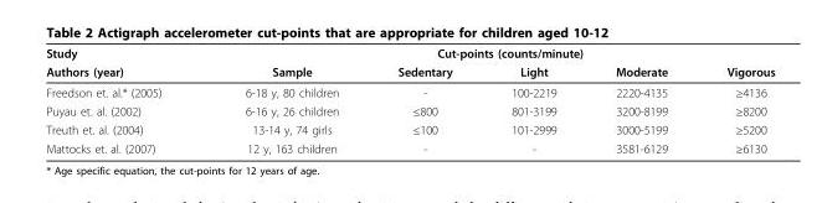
<table><thead><tr><td rowspan="2">Study Authors (year)</td><td colspan="5">Cut-points (counts/minute)</td></tr><tr><td>Sample</td><td>Sedentary</td><td>Light</td><td>Moderate</td><td>Vigorous</td></tr></thead><tbody><tr><td>Freedson et. al.* (2005)</td><td>6-18 y, 80 children</td><td>-</td><td>100-2219</td><td>2220-4135</td><td>≥4136</td></tr><tr><td>Puyau et. al. (2002)</td><td>6-16 y, 26 children</td><td>≤800</td><td>801-3199</td><td>3200-8199</td><td>≥8200</td></tr><tr><td>Treuth et. al. (2004)</td><td>13-14 y, 74 girls</td><td>≤100</td><td>101-2999</td><td>3000-5199</td><td>≥5200</td></tr><tr><td>Mattocks et. al. (2007)</td><td>12 y, 163 children</td><td>-</td><td>-</td><td>3581-6129</td><td>≥6130</td></tr></tbody></table>